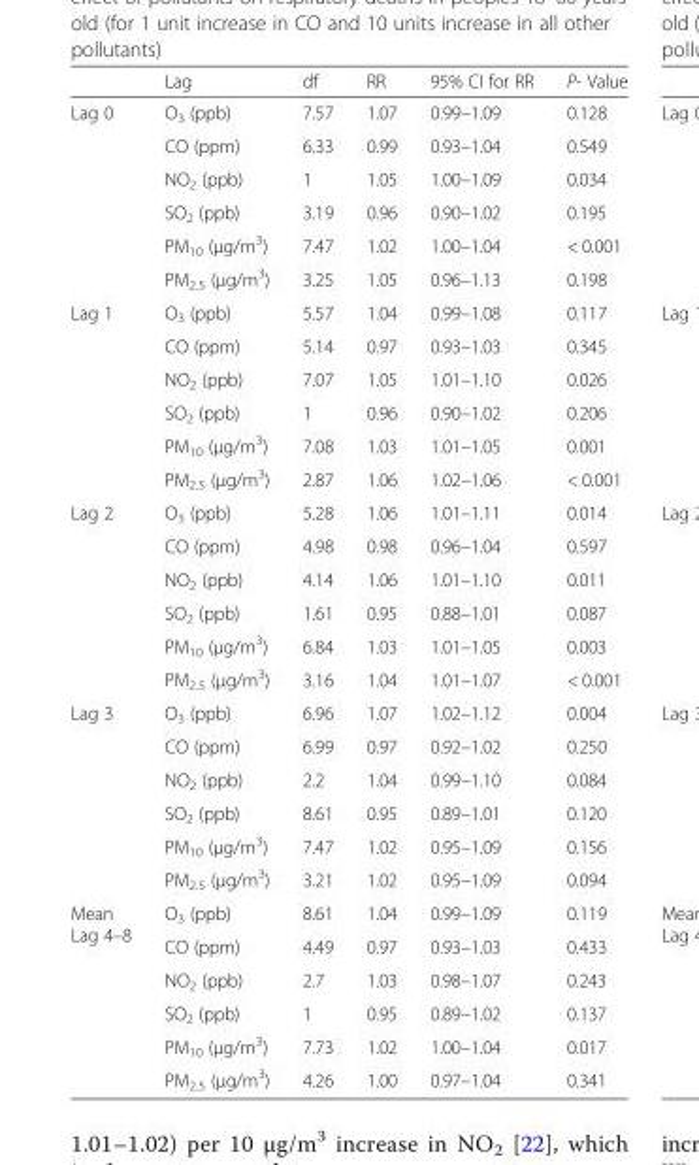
<table><thead><tr><td></td><td>Lag</td><td>df</td><td>RR</td><td>95% CI for RR</td><td>P- Value</td></tr></thead><tbody><tr><td rowspan="6">Lag 0</td><td>O<sub>3</sub> (ppb)</td><td>7.57</td><td>1.07</td><td>0.99–1.09</td><td>0.128</td></tr><tr><td>CO (ppm)</td><td>6.33</td><td>0.99</td><td>0.93–1.04</td><td>0.549</td></tr><tr><td>NO<sub>2</sub> (ppb)</td><td>1</td><td>1.05</td><td>1.00–1.09</td><td>0.034</td></tr><tr><td>SO<sub>2</sub> (ppb)</td><td>3.19</td><td>0.96</td><td>0.90–1.02</td><td>0.195</td></tr><tr><td>PM<sub>10</sub> (μg/m<sup>3</sup>)</td><td>7.47</td><td>1.02</td><td>1.00–1.04</td><td>&lt; 0.001</td></tr><tr><td>PM<sub>2.5</sub> (μg/m<sup>3</sup>)</td><td>3.25</td><td>1.05</td><td>0.96–1.13</td><td>0.198</td></tr><tr><td rowspan="6">Lag 1</td><td>O<sub>3</sub> (ppb)</td><td>5.57</td><td>1.04</td><td>0.99–1.08</td><td>0.117</td></tr><tr><td>CO (ppm)</td><td>5.14</td><td>0.97</td><td>0.93–1.03</td><td>0.345</td></tr><tr><td>NO<sub>2</sub> (ppb)</td><td>7.07</td><td>1.05</td><td>1.01–1.10</td><td>0.026</td></tr><tr><td>SO<sub>2</sub> (ppb)</td><td>1</td><td>0.96</td><td>0.90–1.02</td><td>0.206</td></tr><tr><td>PM<sub>10</sub> (μg/m<sup>3</sup>)</td><td>7.08</td><td>1.03</td><td>1.01–1.05</td><td>0.001</td></tr><tr><td>PM<sub>2.5</sub> (μg/m<sup>3</sup>)</td><td>2.87</td><td>1.06</td><td>1.02–1.06</td><td>&lt; 0.001</td></tr><tr><td rowspan="6">Lag 2</td><td>O<sub>3</sub> (ppb)</td><td>5.28</td><td>1.06</td><td>1.01–1.11</td><td>0.014</td></tr><tr><td>CO (ppm)</td><td>4.98</td><td>0.98</td><td>0.96–1.04</td><td>0.597</td></tr><tr><td>NO<sub>2</sub> (ppb)</td><td>4.14</td><td>1.06</td><td>1.01–1.10</td><td>0.011</td></tr><tr><td>SO<sub>2</sub> (ppb)</td><td>1.61</td><td>0.95</td><td>0.88–1.01</td><td>0.087</td></tr><tr><td>PM<sub>10</sub> (μg/m<sup>3</sup>)</td><td>6.84</td><td>1.03</td><td>1.01–1.05</td><td>0.003</td></tr><tr><td>PM<sub>2.5</sub> (μg/m<sup>3</sup>)</td><td>3.16</td><td>1.04</td><td>1.01–1.07</td><td>&lt; 0.001</td></tr><tr><td rowspan="6">Lag 3</td><td>O<sub>3</sub> (ppb)</td><td>6.96</td><td>1.07</td><td>1.02–1.12</td><td>0.004</td></tr><tr><td>CO (ppm)</td><td>6.99</td><td>0.97</td><td>0.92–1.02</td><td>0.250</td></tr><tr><td>NO<sub>2</sub> (ppb)</td><td>2.2</td><td>1.04</td><td>0.99–1.10</td><td>0.084</td></tr><tr><td>SO<sub>2</sub> (ppb)</td><td>8.61</td><td>0.95</td><td>0.89–1.01</td><td>0.120</td></tr><tr><td>PM<sub>10</sub> (μg/m<sup>3</sup>)</td><td>7.47</td><td>1.02</td><td>0.95–1.09</td><td>0.156</td></tr><tr><td>PM<sub>2.5</sub> (μg/m<sup>3</sup>)</td><td>3.21</td><td>1.02</td><td>0.95–1.09</td><td>0.094</td></tr><tr><td rowspan="6">Mean Lag 4–8</td><td>O<sub>3</sub> (ppb)</td><td>8.61</td><td>1.04</td><td>0.99–1.09</td><td>0.119</td></tr><tr><td>CO (ppm)</td><td>4.49</td><td>0.97</td><td>0.93–1.03</td><td>0.433</td></tr><tr><td>NO<sub>2</sub> (ppb)</td><td>2.7</td><td>1.03</td><td>0.98–1.07</td><td>0.243</td></tr><tr><td>SO<sub>2</sub> (ppb)</td><td>1</td><td>0.95</td><td>0.89–1.02</td><td>0.137</td></tr><tr><td>PM<sub>10</sub> (μg/m<sup>3</sup>)</td><td>7.73</td><td>1.02</td><td>1.00–1.04</td><td>0.017</td></tr><tr><td>PM<sub>2.5</sub> (μg/m<sup>3</sup>)</td><td>4.26</td><td>1.00</td><td>0.97–1.04</td><td>0.341</td></tr></tbody></table>